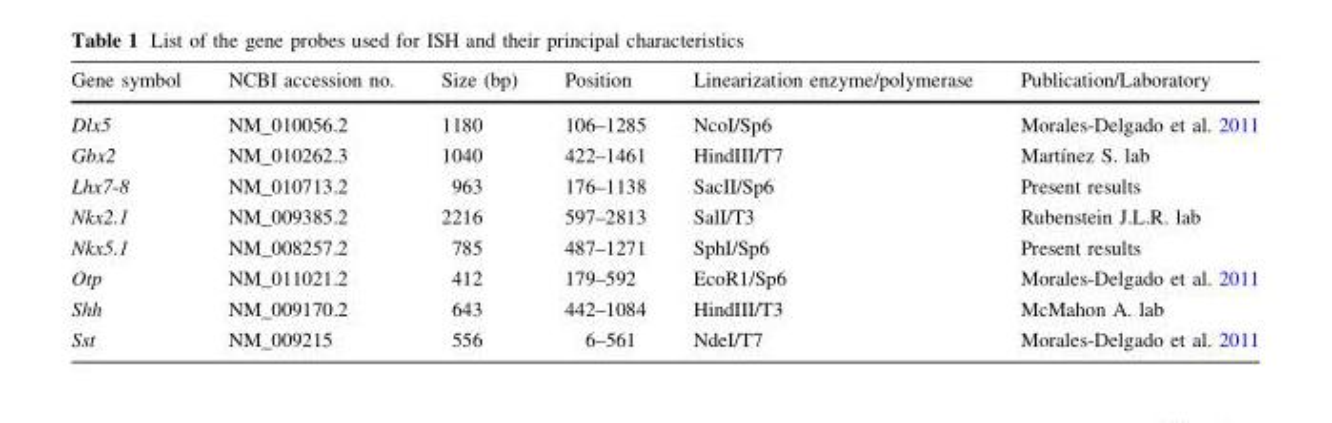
<table><thead><tr><td>Gene symbol</td><td>NCBI accession no.</td><td>Size (bp)</td><td>Position</td><td>Linearization enzyme/polymerase</td><td>Publication/Laboratory</td></tr></thead><tbody><tr><td>Dlx5</td><td>NM_010056.2</td><td>1180</td><td>106–1285</td><td>NcoI/Sp6</td><td>Morales-Delgado et al. 2011</td></tr><tr><td>Gbx2</td><td>NM_010262.3</td><td>1040</td><td>422–1461</td><td>HindIII/T7</td><td>Martı´nez S. lab</td></tr><tr><td>Lhx7-8</td><td>NM_010713.2</td><td>963</td><td>176–1138</td><td>SacII/Sp6</td><td>Present results</td></tr><tr><td>Nkx2.1</td><td>NM_009385.2</td><td>2216</td><td>597–2813</td><td>SalI/T3</td><td>Rubenstein J.L.R. lab</td></tr><tr><td>Nkx5.1</td><td>NM_008257.2</td><td>785</td><td>487–1271</td><td>SphI/Sp6</td><td>Present results</td></tr><tr><td>Otp</td><td>NM_011021.2</td><td>412</td><td>179–592</td><td>EcoR1/Sp6</td><td>Morales-Delgado et al. 2011</td></tr><tr><td>Shh</td><td>NM_009170.2</td><td>643</td><td>442–1084</td><td>HindIII/T3</td><td>McMahon A. lab</td></tr><tr><td>Sst</td><td>NM_009215</td><td>556</td><td>6–561</td><td>NdeI/T7</td><td>Morales-Delgado et al. 2011</td></tr></tbody></table>